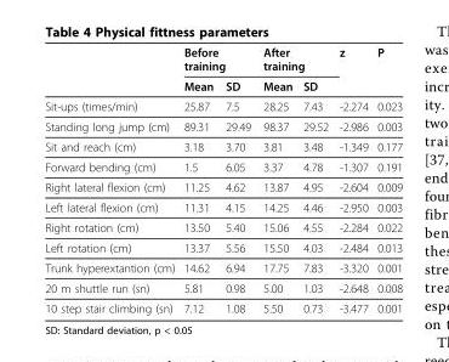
<table><thead><tr><td rowspan="2"></td><td colspan="2">Before training</td><td colspan="2">After training</td><td rowspan="2">z</td><td rowspan="2">P</td></tr><tr><td>Mean</td><td>SD</td><td>Mean</td><td>SD</td></tr></thead><tbody><tr><td>Sit-ups (times/min)</td><td>25.87</td><td>7.5</td><td>28.25</td><td>7.43</td><td>-2.274</td><td>0.023</td></tr><tr><td>Standing long jump (cm)</td><td>89.31</td><td>29.49</td><td>98.37</td><td>29.52</td><td>-2.986</td><td>0.003</td></tr><tr><td>Sit and reach (cm)</td><td>3.18</td><td>3.70</td><td>3.81</td><td>3.48</td><td>-1.349</td><td>0.177</td></tr><tr><td>Forward bending (cm)</td><td>1.5</td><td>6.05</td><td>3.37</td><td>4.78</td><td>-1.307</td><td>0.191</td></tr><tr><td>Right lateral flexion (cm)</td><td>11.25</td><td>4.62</td><td>13.87</td><td>4.95</td><td>-2.604</td><td>0.009</td></tr><tr><td>Left lateral flexion (cm)</td><td>11.31</td><td>4.15</td><td>14.25</td><td>4.46</td><td>-2.950</td><td>0.003</td></tr><tr><td>Right rotation (cm)</td><td>13.50</td><td>5.40</td><td>15.06</td><td>4.55</td><td>-2.284</td><td>0.022</td></tr><tr><td>Left rotation (cm)</td><td>13.37</td><td>5.56</td><td>15.50</td><td>4.03</td><td>-2.484</td><td>0.013</td></tr><tr><td>Trunk hyperextantion (cm)</td><td>14.62</td><td>6.94</td><td>17.75</td><td>7.83</td><td>-3.320</td><td>0.001</td></tr><tr><td>20 m shuttle run (sn)</td><td>5.81</td><td>0.98</td><td>5.00</td><td>1.03</td><td>-2.648</td><td>0.008</td></tr><tr><td>10 step stair climbing (sn)</td><td>7.12</td><td>1.08</td><td>5.50</td><td>0.73</td><td>-3.477</td><td>0.001</td></tr></tbody></table>